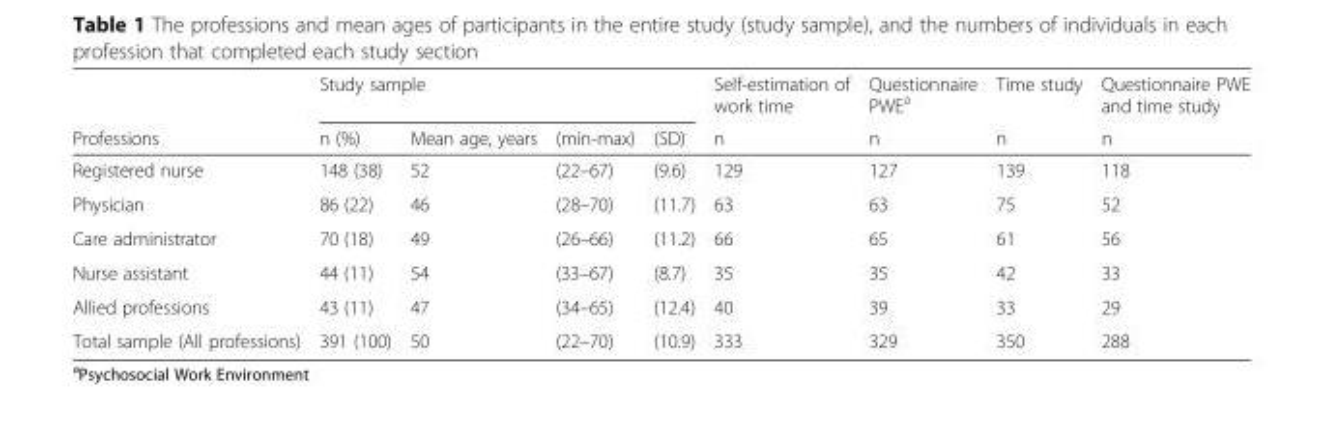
<table><thead><tr><td rowspan="2">Professions</td><td colspan="4">Study sample</td><td rowspan="2">Self-estimation of work time n</td><td rowspan="2">Questionnaire PWE<sup>a</sup> n</td><td rowspan="2">Time study n</td><td rowspan="2">Questionnaire PWE and time study n</td></tr><tr><td>n (%)</td><td>Mean age, years</td><td>(min-max)</td><td>(SD)</td></tr></thead><tbody><tr><td>Registered nurse</td><td>148 (38)</td><td>52</td><td>(22–67)</td><td>(9.6)</td><td>129</td><td>127</td><td>139</td><td>118</td></tr><tr><td>Physician</td><td>86 (22)</td><td>46</td><td>(28–70)</td><td>(11.7)</td><td>63</td><td>63</td><td>75</td><td>52</td></tr><tr><td>Care administrator</td><td>70 (18)</td><td>49</td><td>(26–66)</td><td>(11.2)</td><td>66</td><td>65</td><td>61</td><td>56</td></tr><tr><td>Nurse assistant</td><td>44 (11)</td><td>54</td><td>(33–67)</td><td>(8.7)</td><td>35</td><td>35</td><td>42</td><td>33</td></tr><tr><td>Allied professions</td><td>43 (11)</td><td>47</td><td>(34–65)</td><td>(12.4)</td><td>40</td><td>39</td><td>33</td><td>29</td></tr><tr><td>Total sample (All professions)</td><td>391 (100)</td><td>50</td><td>(22–70)</td><td>(10.9)</td><td>333</td><td>329</td><td>350</td><td>288</td></tr></tbody></table>